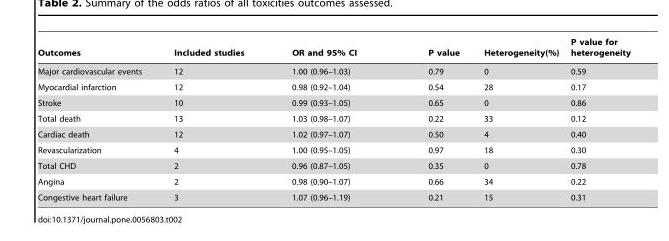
<table><thead><tr><td>Outcomes</td><td>Included studies</td><td>OR and 95% CI</td><td>P value</td><td>Heterogeneity(%)</td><td>P value for heterogeneity</td></tr></thead><tbody><tr><td>Major cardiovascular events</td><td>12</td><td>1.00 (0.96–1.03)</td><td>0.79</td><td>0</td><td>0.59</td></tr><tr><td>Myocardial infarction</td><td>12</td><td>0.98 (0.92–1.04)</td><td>0.54</td><td>28</td><td>0.17</td></tr><tr><td>Stroke</td><td>10</td><td>0.99 (0.93–1.05)</td><td>0.65</td><td>0</td><td>0.86</td></tr><tr><td>Total death</td><td>13</td><td>1.03 (0.98–1.07)</td><td>0.22</td><td>33</td><td>0.12</td></tr><tr><td>Cardiac death</td><td>12</td><td>1.02 (0.97–1.07)</td><td>0.50</td><td>4</td><td>0.40</td></tr><tr><td>Revascularization</td><td>4</td><td>1.00 (0.95–1.05)</td><td>0.97</td><td>18</td><td>0.30</td></tr><tr><td>Total CHD</td><td>2</td><td>0.96 (0.87–1.05)</td><td>0.35</td><td>0</td><td>0.78</td></tr><tr><td>Angina</td><td>2</td><td>0.98 (0.90–1.07)</td><td>0.66</td><td>34</td><td>0.22</td></tr><tr><td>Congestive heart failure</td><td>3</td><td>1.07 (0.96–1.19)</td><td>0.21</td><td>15</td><td>0.31</td></tr></tbody></table>